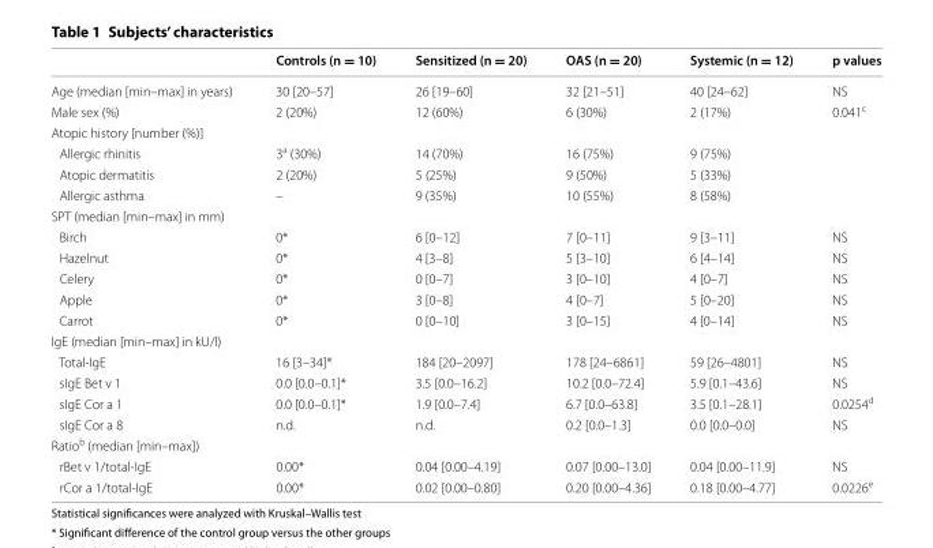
<table><thead><tr><td></td><td>Controls (n = 10)</td><td>Sensitized (n = 20)</td><td>OAS (n = 20)</td><td>Systemic (n = 12)</td><td>p values</td></tr></thead><tbody><tr><td>Age (median [min–max] in years)</td><td>30 [20–57]</td><td>26 [19–60]</td><td>32 [21–51]</td><td>40 [24–62]</td><td>NS</td></tr><tr><td>Male sex (%)</td><td>2 (20%)</td><td>12 (60%)</td><td>6 (30%)</td><td>2 (17%)</td><td>0.041<sup>c</sup></td></tr><tr><td colspan="6">Atopic history [number (%)]</td></tr><tr><td>Allergic rhinitis</td><td>3<sup>a</sup> (30%)</td><td>14 (70%)</td><td>16 (75%)</td><td>9 (75%)</td><td></td></tr><tr><td>Atopic dermatitis</td><td>2 (20%)</td><td>5 (25%)</td><td>9 (50%)</td><td>5 (33%)</td><td></td></tr><tr><td>Allergic asthma</td><td>–</td><td>9 (35%)</td><td>10 (55%)</td><td>8 (58%)</td><td></td></tr><tr><td colspan="6">SPT (median [min–max] in mm)</td></tr><tr><td>Birch</td><td>0*</td><td>6 [0–12]</td><td>7 [0–11]</td><td>9 [3–11]</td><td>NS</td></tr><tr><td>Hazelnut</td><td>0*</td><td>4 [3–8]</td><td>5 [3–10]</td><td>6 [4–14]</td><td>NS</td></tr><tr><td>Celery</td><td>0*</td><td>0 [0–7]</td><td>3 [0–10]</td><td>4 [0–7]</td><td>NS</td></tr><tr><td>Apple</td><td>0*</td><td>3 [0–8]</td><td>4 [0–7]</td><td>5 [0–20]</td><td>NS</td></tr><tr><td>Carrot</td><td>0*</td><td>0 [0–10]</td><td>3 [0–15]</td><td>4 [0–14]</td><td>NS</td></tr><tr><td colspan="6">IgE (median [min–max] in kU/l)</td></tr><tr><td>Total-IgE</td><td>16 [3–34]*</td><td>184 [20–2097]</td><td>178 [24–6861]</td><td>59 [26–4801]</td><td>NS</td></tr><tr><td>sIgE Bet v 1</td><td>0.0 [0.0–0.1]*</td><td>3.5 [0.0–16.2]</td><td>10.2 [0.0–72.4]</td><td>5.9 [0.1–43.6]</td><td>NS</td></tr><tr><td>sIgE Cor a 1</td><td>0.0 [0.0–0.1]*</td><td>1.9 [0.0–7.4]</td><td>6.7 [0.0–63.8]</td><td>3.5 [0.1–28.1]</td><td>0.0254<sup>d</sup></td></tr><tr><td>sIgE Cor a 8</td><td>n.d.</td><td>n.d.</td><td>0.2 [0.0–1.3]</td><td>0.0 [0.0–0.0]</td><td>NS</td></tr><tr><td colspan="6">Ratio<sup>b</sup> (median [min–max])</td></tr><tr><td>rBet v 1/total-IgE</td><td>0.00*</td><td>0.04 [0.00–4.19]</td><td>0.07 [0.00–13.0]</td><td>0.04 [0.00–11.9]</td><td>NS</td></tr><tr><td>rCor a 1/total-IgE</td><td>0.00*</td><td>0.02 [0.00–0.80]</td><td>0.20 [0.00–4.36]</td><td>0.18 [0.00–4.77]</td><td>0.0226<sup>e</sup></td></tr></tbody></table>